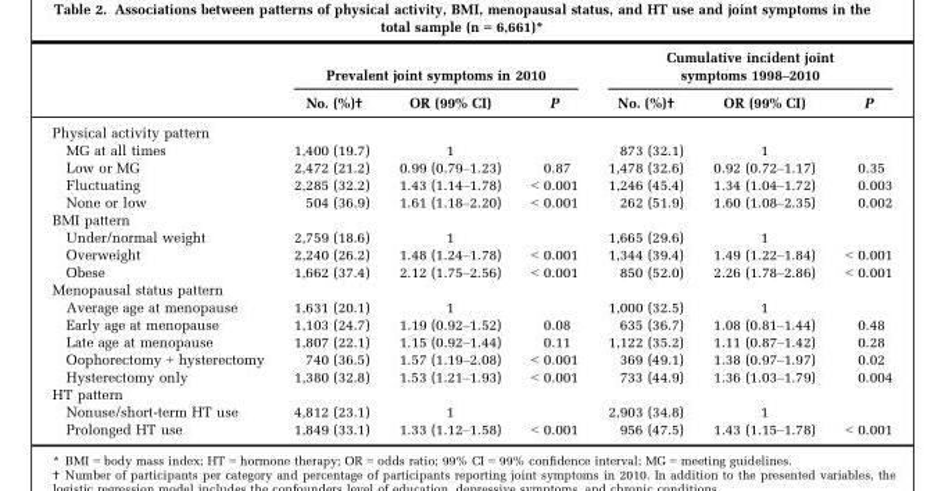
<table><thead><tr><td rowspan="2"></td><td colspan="3">Prevalent joint symptoms in 2010</td><td colspan="3">Cumulative incident joint symptoms 1998–2010</td></tr><tr><td>No. (%)†</td><td>OR (99% CI)</td><td>P</td><td>No. (%)†</td><td>OR (99% CI)</td><td>P</td></tr></thead><tbody><tr><td colspan="7">Physical activity pattern</td></tr><tr><td>MG at all times</td><td>1,400 (19.7)</td><td>1</td><td></td><td>873 (32.1)</td><td>1</td><td></td></tr><tr><td>Low or MG</td><td>2,472 (21.2)</td><td>0.99 (0.79–1.23)</td><td>0.87</td><td>1,478 (32.6)</td><td>0.92 (0.72–1.17)</td><td>0.35</td></tr><tr><td>Fluctuating</td><td>2,285 (32.2)</td><td>1.43 (1.14–1.78)</td><td>&lt; 0.001</td><td>1,246 (45.4)</td><td>1.34 (1.04–1.72)</td><td>0.003</td></tr><tr><td>None or low</td><td>504 (36.9)</td><td>1.61 (1.18–2.20)</td><td>&lt; 0.001</td><td>262 (51.9)</td><td>1.60 (1.08–2.35)</td><td>0.002</td></tr><tr><td colspan="7">BMI pattern</td></tr><tr><td>Under/normal weight</td><td>2,759 (18.6)</td><td>1</td><td></td><td>1,665 (29.6)</td><td>1</td><td></td></tr><tr><td>Overweight</td><td>2,240 (26.2)</td><td>1.48 (1.24–1.78)</td><td>&lt; 0.001</td><td>1,344 (39.4)</td><td>1.49 (1.22–1.84)</td><td>&lt; 0.001</td></tr><tr><td>Obese</td><td>1,662 (37.4)</td><td>2.12 (1.75–2.56)</td><td>&lt; 0.001</td><td>850 (52.0)</td><td>2.26 (1.78–2.86)</td><td>&lt; 0.001</td></tr><tr><td colspan="7">Menopausal status pattern</td></tr><tr><td>Average age at menopause</td><td>1,631 (20.1)</td><td>1</td><td></td><td>1,000 (32.5)</td><td>1</td><td></td></tr><tr><td>Early age at menopause</td><td>1,103 (24.7)</td><td>1.19 (0.92–1.52)</td><td>0.08</td><td>635 (36.7)</td><td>1.08 (0.81–1.44)</td><td>0.48</td></tr><tr><td>Late age at menopause</td><td>1,807 (22.1)</td><td>1.15 (0.92–1.44)</td><td>0.11</td><td>1,122 (35.2)</td><td>1.11 (0.87–1.42)</td><td>0.28</td></tr><tr><td>Oophorectomy + hysterectomy</td><td>740 (36.5)</td><td>1.57 (1.19–2.08)</td><td>&lt; 0.001</td><td>369 (49.1)</td><td>1.38 (0.97–1.97)</td><td>0.02</td></tr><tr><td>Hysterectomy only</td><td>1,380 (32.8)</td><td>1.53 (1.21–1.93)</td><td>&lt; 0.001</td><td>733 (44.9)</td><td>1.36 (1.03–1.79)</td><td>0.004</td></tr><tr><td colspan="7">HT pattern</td></tr><tr><td>Nonuse/short-term HT use</td><td>4,812 (23.1)</td><td>1</td><td></td><td>2,903 (34.8)</td><td>1</td><td></td></tr><tr><td>Prolonged HT use</td><td>1,849 (33.1)</td><td>1.33 (1.12–1.58)</td><td>&lt; 0.001</td><td>956 (47.5)</td><td>1.43 (1.15–1.78)</td><td>&lt; 0.001</td></tr></tbody></table>